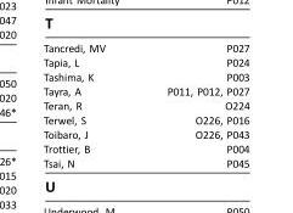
<table><tbody><tr><td>Tancredi, MV</td><td>P027</td></tr><tr><td>Tapia, L</td><td>P024</td></tr><tr><td>Tashima, K</td><td>P003</td></tr><tr><td>Tayra, A</td><td>P011, P012, P027</td></tr><tr><td>Teran, R</td><td>O224</td></tr><tr><td>Terwel, S</td><td>O226, P016</td></tr><tr><td>Toibaro, J</td><td>O226, P043</td></tr><tr><td>Trottier, B</td><td>P004</td></tr><tr><td>Tsai, N</td><td>P045</td></tr></tbody></table>